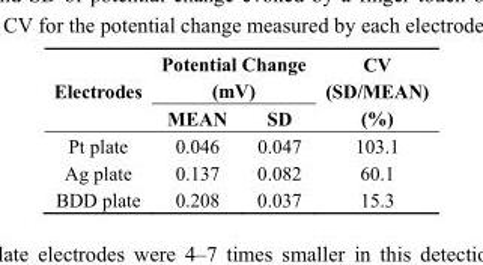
<table><thead><tr><td rowspan="2">Electrodes</td><td colspan="2">Potential Change (mV)</td><td rowspan="2">CV (SD/MEAN) (%)</td></tr><tr><td>MEAN</td><td>SD</td></tr></thead><tbody><tr><td>Pt plate</td><td>0.046</td><td>0.047</td><td>103.1</td></tr><tr><td>Ag plate</td><td>0.137</td><td>0.082</td><td>60.1</td></tr><tr><td>BDD plate</td><td>0.208</td><td>0.037</td><td>15.3</td></tr></tbody></table>